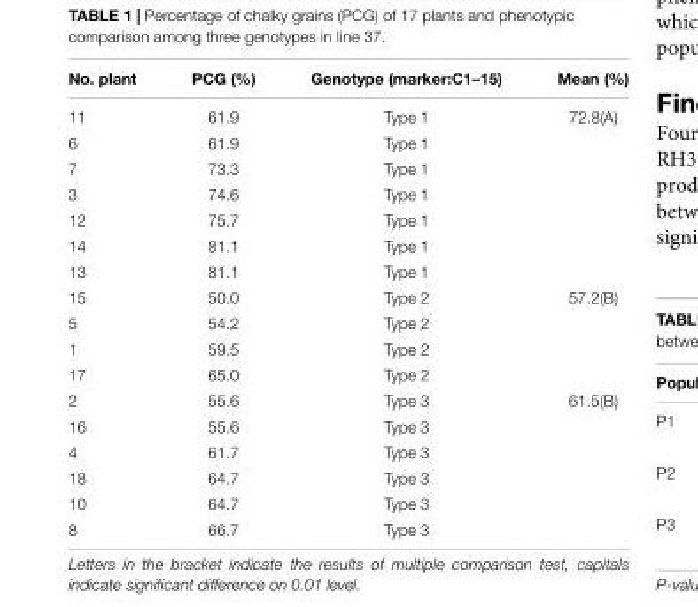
<table><thead><tr><td>No. plant</td><td>PCG (%)</td><td>Genotype (marker:C1–15)</td><td>Mean (%)</td></tr></thead><tbody><tr><td>11</td><td>61.9</td><td>Type 1</td><td>72.8(A)</td></tr><tr><td>6</td><td>61.9</td><td>Type 1</td><td></td></tr><tr><td>7</td><td>73.3</td><td>Type 1</td><td></td></tr><tr><td>3</td><td>74.6</td><td>Type 1</td><td></td></tr><tr><td>12</td><td>75.7</td><td>Type 1</td><td></td></tr><tr><td>14</td><td>81.1</td><td>Type 1</td><td></td></tr><tr><td>13</td><td>81.1</td><td>Type 1</td><td></td></tr><tr><td>15</td><td>50.0</td><td>Type 2</td><td>57.2(B)</td></tr><tr><td>5</td><td>54.2</td><td>Type 2</td><td></td></tr><tr><td>1</td><td>59.5</td><td>Type 2</td><td></td></tr><tr><td>17</td><td>65.0</td><td>Type 2</td><td></td></tr><tr><td>2</td><td>55.6</td><td>Type 3</td><td>61.5(B)</td></tr><tr><td>16</td><td>55.6</td><td>Type 3</td><td></td></tr><tr><td>4</td><td>61.7</td><td>Type 3</td><td></td></tr><tr><td>18</td><td>64.7</td><td>Type 3</td><td></td></tr><tr><td>10</td><td>64.7</td><td>Type 3</td><td></td></tr><tr><td>8</td><td>66.7</td><td>Type 3</td><td></td></tr></tbody></table>